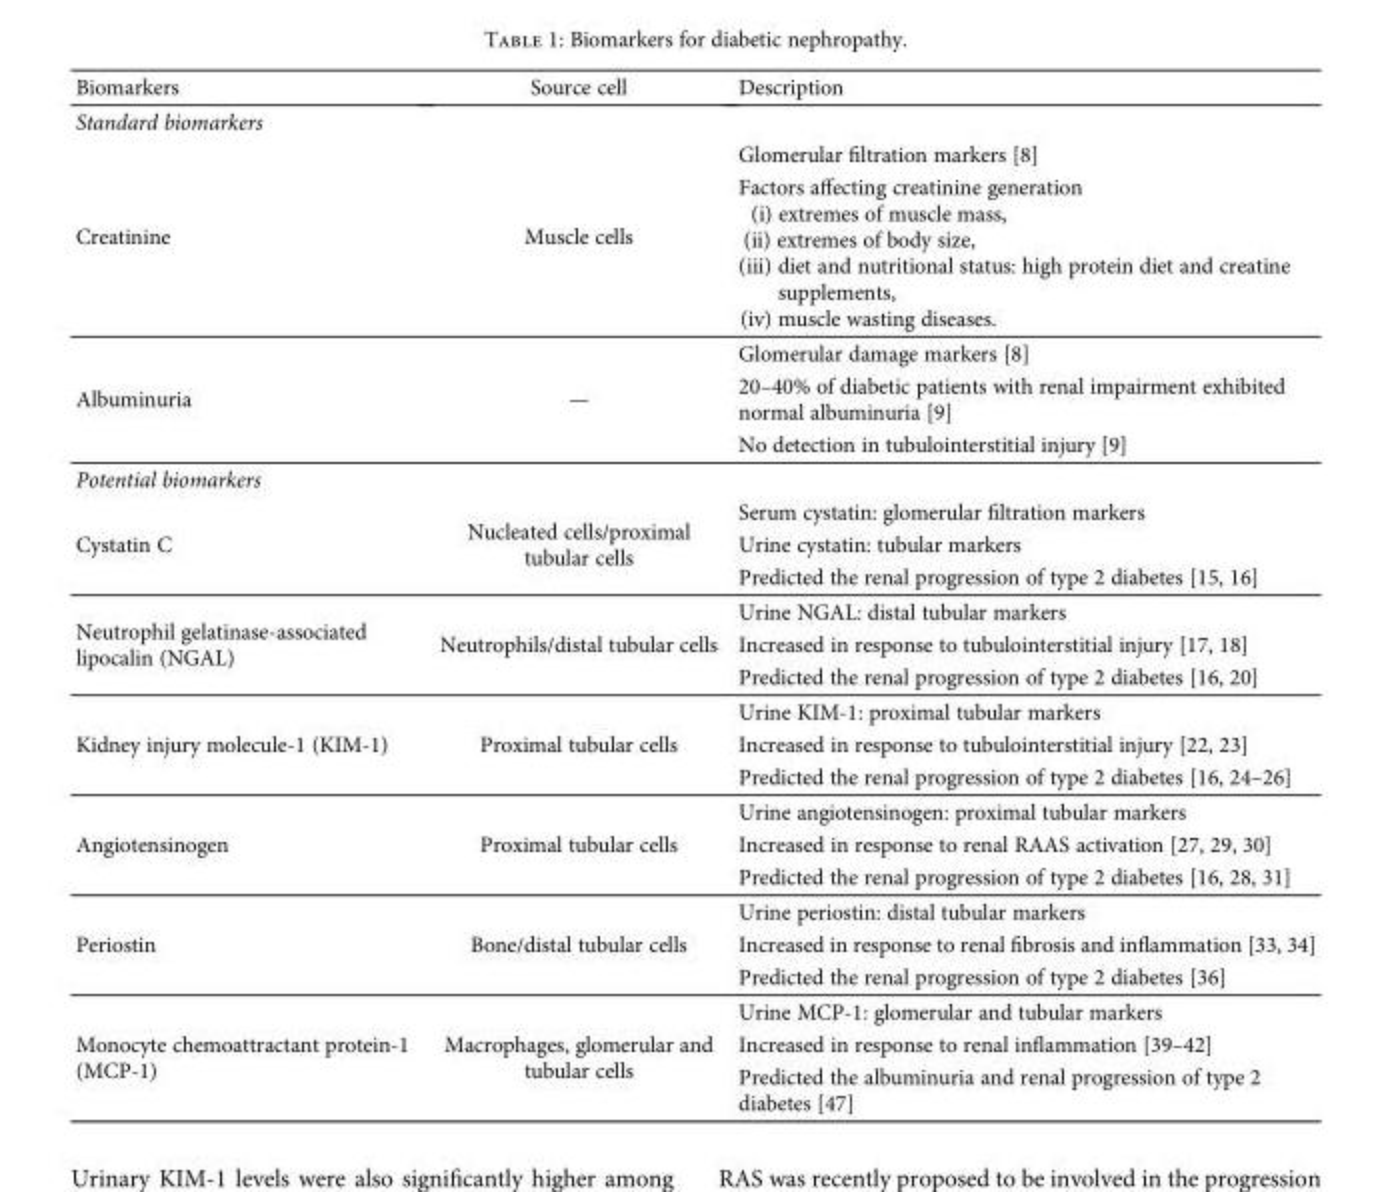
<table><thead><tr><td>Biomarkers</td><td>Source cell</td><td>Description</td></tr></thead><tbody><tr><td colspan="3">Standard biomarkers</td></tr><tr><td rowspan="2">Creatinine</td><td rowspan="2">Muscle cells</td><td>Glomerular filtration markers [8]</td></tr><tr><td>Factors affecting creatinine generation (i) extremes of muscle mass, (ii) extremes of body size, (iii) diet and nutritional status: high protein diet and creatine supplements, (iv) muscle wasting diseases.</td></tr><tr><td rowspan="3">Albuminuria</td><td rowspan="3">—</td><td>Glomerular damage markers [8]</td></tr><tr><td>20–40% of diabetic patients with renal impairment exhibited normal albuminuria [9]</td></tr><tr><td>No detection in tubulointerstitial injury [9]</td></tr><tr><td colspan="3">Potential biomarkers</td></tr><tr><td rowspan="3">Cystatin C</td><td rowspan="3">Nucleated cells/proximal tubular cells</td><td>Serum cystatin: glomerular filtration markers</td></tr><tr><td>Urine cystatin: tubular markers</td></tr><tr><td>Predicted the renal progression of type 2 diabetes [15, 16]</td></tr><tr><td rowspan="3">Neutrophil gelatinase-associated lipocalin (NGAL)</td><td rowspan="3">Neutrophils/distal tubular cells</td><td>Urine NGAL: distal tubular markers</td></tr><tr><td>Increased in response to tubulointerstitial injury [17, 18]</td></tr><tr><td>Predicted the renal progression of type 2 diabetes [16, 20]</td></tr><tr><td rowspan="3">Kidney injury molecule-1 (KIM-1)</td><td rowspan="3">Proximal tubular cells</td><td>Urine KIM-1: proximal tubular markers</td></tr><tr><td>Increased in response to tubulointerstitial injury [22, 23]</td></tr><tr><td>Predicted the renal progression of type 2 diabetes [16, 24–26]</td></tr><tr><td rowspan="3">Angiotensinogen</td><td rowspan="3">Proximal tubular cells</td><td>Urine angiotensinogen: proximal tubular markers</td></tr><tr><td>Increased in response to renal RAAS activation [27, 29, 30]</td></tr><tr><td>Predicted the renal progression of type 2 diabetes [16, 28, 31]</td></tr><tr><td rowspan="3">Periostin</td><td rowspan="3">Bone/distal tubular cells</td><td>Urine periostin: distal tubular markers</td></tr><tr><td>Increased in response to renal fibrosis and inflammation [33, 34]</td></tr><tr><td>Predicted the renal progression of type 2 diabetes [36]</td></tr><tr><td rowspan="3">Monocyte chemoattractant protein-1 (MCP-1)</td><td rowspan="3">Macrophages, glomerular and tubular cells</td><td>Urine MCP-1: glomerular and tubular markers</td></tr><tr><td>Increased in response to renal inflammation [39–42]</td></tr><tr><td>Predicted the albuminuria and renal progression of type 2 diabetes [47]</td></tr></tbody></table>